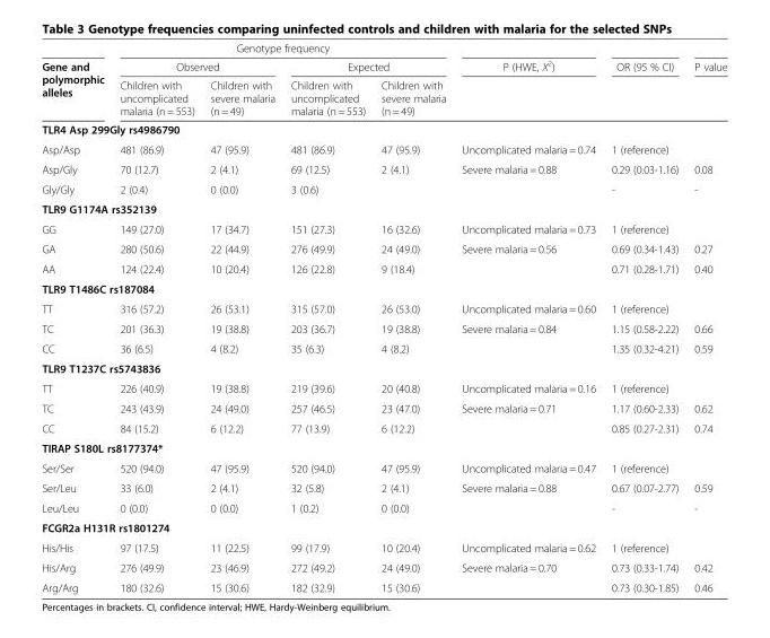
<table><thead><tr><td rowspan="3">Gene and polymorphic alleles</td><td colspan="4">Genotype frequency</td><td rowspan="3">P (HWE, X<sup>2</sup>)</td><td rowspan="3">OR (95 % CI)</td><td rowspan="3">P value</td></tr><tr><td colspan="2">Observed</td><td colspan="2">Expected</td></tr><tr><td>Children with uncomplicated malaria (n = 553)</td><td>Children with severe malaria (n = 49)</td><td>Children with uncomplicated malaria (n = 553)</td><td>Children with severe malaria (n = 49)</td></tr></thead><tbody><tr><td colspan="8">TLR4 Asp 299Gly rs4986790</td></tr><tr><td>Asp/Asp</td><td>481 (86.9)</td><td>47 (95.9)</td><td>481 (86.9)</td><td>47 (95.9)</td><td>Uncomplicated malaria = 0.74</td><td>1 (reference)</td><td></td></tr><tr><td>Asp/Gly</td><td>70 (12.7)</td><td>2 (4.1)</td><td>69 (12.5)</td><td>2 (4.1)</td><td>Severe malaria = 0.88</td><td>0.29 (0.03-1.16)</td><td>0.08</td></tr><tr><td>Gly/Gly</td><td>2 (0.4)</td><td>0 (0.0)</td><td>3 (0.6)</td><td></td><td></td><td>-</td><td>-</td></tr><tr><td colspan="8">TLR9 G1174A rs352139</td></tr><tr><td>GG</td><td>149 (27.0)</td><td>17 (34.7)</td><td>151 (27.3)</td><td>16 (32.6)</td><td>Uncomplicated malaria = 0.73</td><td>1 (reference)</td><td></td></tr><tr><td>GA</td><td>280 (50.6)</td><td>22 (44.9)</td><td>276 (49.9)</td><td>24 (49.0)</td><td>Severe malaria = 0.56</td><td>0.69 (0.34-1.43)</td><td>0.27</td></tr><tr><td>AA</td><td>124 (22.4)</td><td>10 (20.4)</td><td>126 (22.8)</td><td>9 (18.4)</td><td></td><td>0.71 (0.28-1.71)</td><td>0.40</td></tr><tr><td colspan="8">TLR9 T1486C rs187084</td></tr><tr><td>TT</td><td>316 (57.2)</td><td>26 (53.1)</td><td>315 (57.0)</td><td>26 (53.0)</td><td>Uncomplicated malaria = 0.60</td><td>1 (reference)</td><td></td></tr><tr><td>TC</td><td>201 (36.3)</td><td>19 (38.8)</td><td>203 (36.7)</td><td>19 (38.8)</td><td>Severe malaria = 0.84</td><td>1.15 (0.58-2.22)</td><td>0.66</td></tr><tr><td>CC</td><td>36 (6.5)</td><td>4 (8.2)</td><td>35 (6.3)</td><td>4 (8.2)</td><td></td><td>1.35 (0.32-4.21)</td><td>0.59</td></tr><tr><td colspan="8">TLR9 T1237C rs5743836</td></tr><tr><td>TT</td><td>226 (40.9)</td><td>19 (38.8)</td><td>219 (39.6)</td><td>20 (40.8)</td><td>Uncomplicated malaria = 0.16</td><td>1 (reference)</td><td></td></tr><tr><td>TC</td><td>243 (43.9)</td><td>24 (49.0)</td><td>257 (46.5)</td><td>23 (47.0)</td><td>Severe malaria = 0.71</td><td>1.17 (0.60-2.33)</td><td>0.62</td></tr><tr><td>CC</td><td>84 (15.2)</td><td>6 (12.2)</td><td>77 (13.9)</td><td>6 (12.2)</td><td></td><td>0.85 (0.27-2.31)</td><td>0.74</td></tr><tr><td colspan="8">TIRAP S180L rs8177374*</td></tr><tr><td>Ser/Ser</td><td>520 (94.0)</td><td>47 (95.9)</td><td>520 (94.0)</td><td>47 (95.9)</td><td>Uncomplicated malaria = 0.47</td><td>1 (reference)</td><td></td></tr><tr><td>Ser/Leu</td><td>33 (6.0)</td><td>2 (4.1)</td><td>32 (5.8)</td><td>2 (4.1)</td><td>Severe malaria = 0.88</td><td>0.67 (0.07-2.77)</td><td>0.59</td></tr><tr><td>Leu/Leu</td><td>0 (0.0)</td><td>0 (0.0)</td><td>1 (0.2)</td><td>0 (0.0)</td><td></td><td>-</td><td>-</td></tr><tr><td colspan="8">FCGR2a H131R rs1801274</td></tr><tr><td>His/His</td><td>97 (17.5)</td><td>11 (22.5)</td><td>99 (17.9)</td><td>10 (20.4)</td><td>Uncomplicated malaria = 0.62</td><td>1 (reference)</td><td></td></tr><tr><td>His/Arg</td><td>276 (49.9)</td><td>23 (46.9)</td><td>272 (49.2)</td><td>24 (49.0)</td><td>Severe malaria = 0.70</td><td>0.73 (0.33-1.74)</td><td>0.42</td></tr><tr><td>Arg/Arg</td><td>180 (32.6)</td><td>15 (30.6)</td><td>182 (32.9)</td><td>15 (30.6)</td><td></td><td>0.73 (0.30-1.85)</td><td>0.46</td></tr></tbody></table>